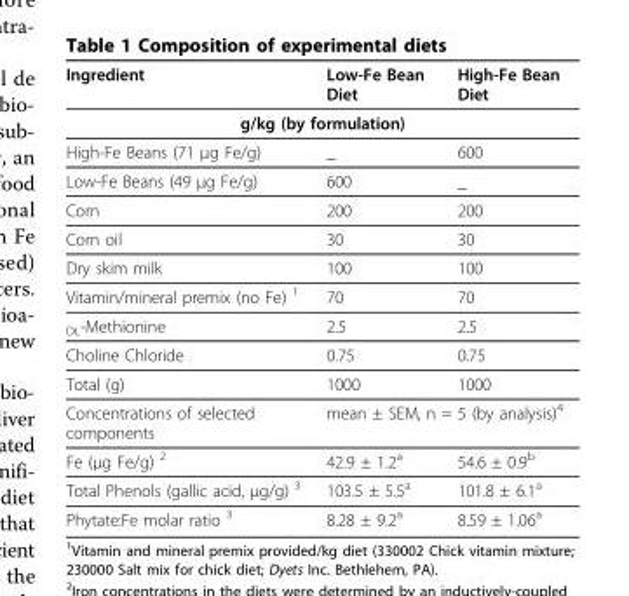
<table><thead><tr><td>Ingredient</td><td>Low-Fe Bean Diet</td><td>High-Fe Bean Diet</td></tr></thead><tbody><tr><td colspan="3">g/kg (by formulation)</td></tr><tr><td>High-Fe Beans (71 μg Fe/g)</td><td>_</td><td>600</td></tr><tr><td>Low-Fe Beans (49 μg Fe/g)</td><td>600</td><td>_</td></tr><tr><td>Corn</td><td>200</td><td>200</td></tr><tr><td>Corn oil</td><td>30</td><td>30</td></tr><tr><td>Dry skim milk</td><td>100</td><td>100</td></tr><tr><td>Vitamin/mineral premix (no Fe) <sup>1</sup></td><td>70</td><td>70</td></tr><tr><td><sub>DL</sub>-Methionine</td><td>2.5</td><td>2.5</td></tr><tr><td>Choline Chloride</td><td>0.75</td><td>0.75</td></tr><tr><td>Total (g)</td><td>1000</td><td>1000</td></tr><tr><td>Concentrations of selected components</td><td colspan="2">mean ± SEM, n = 5 (by analysis)<sup>4</sup></td></tr><tr><td>Fe (μg Fe/g) <sup>2</sup></td><td>42.9 ± 1.2<sup>a</sup></td><td>54.6 ± 0.9<sup>b</sup></td></tr><tr><td>Total Phenols (gallic acid, μg/g) <sup>3</sup></td><td>103.5 ± 5.5<sup>a</sup></td><td>101.8 ± 6.1<sup>a</sup></td></tr><tr><td>Phytate:Fe molar ratio <sup>3</sup></td><td>8.28 ± 9.2<sup>a</sup></td><td>8.59 ± 1.06<sup>a</sup></td></tr></tbody></table>